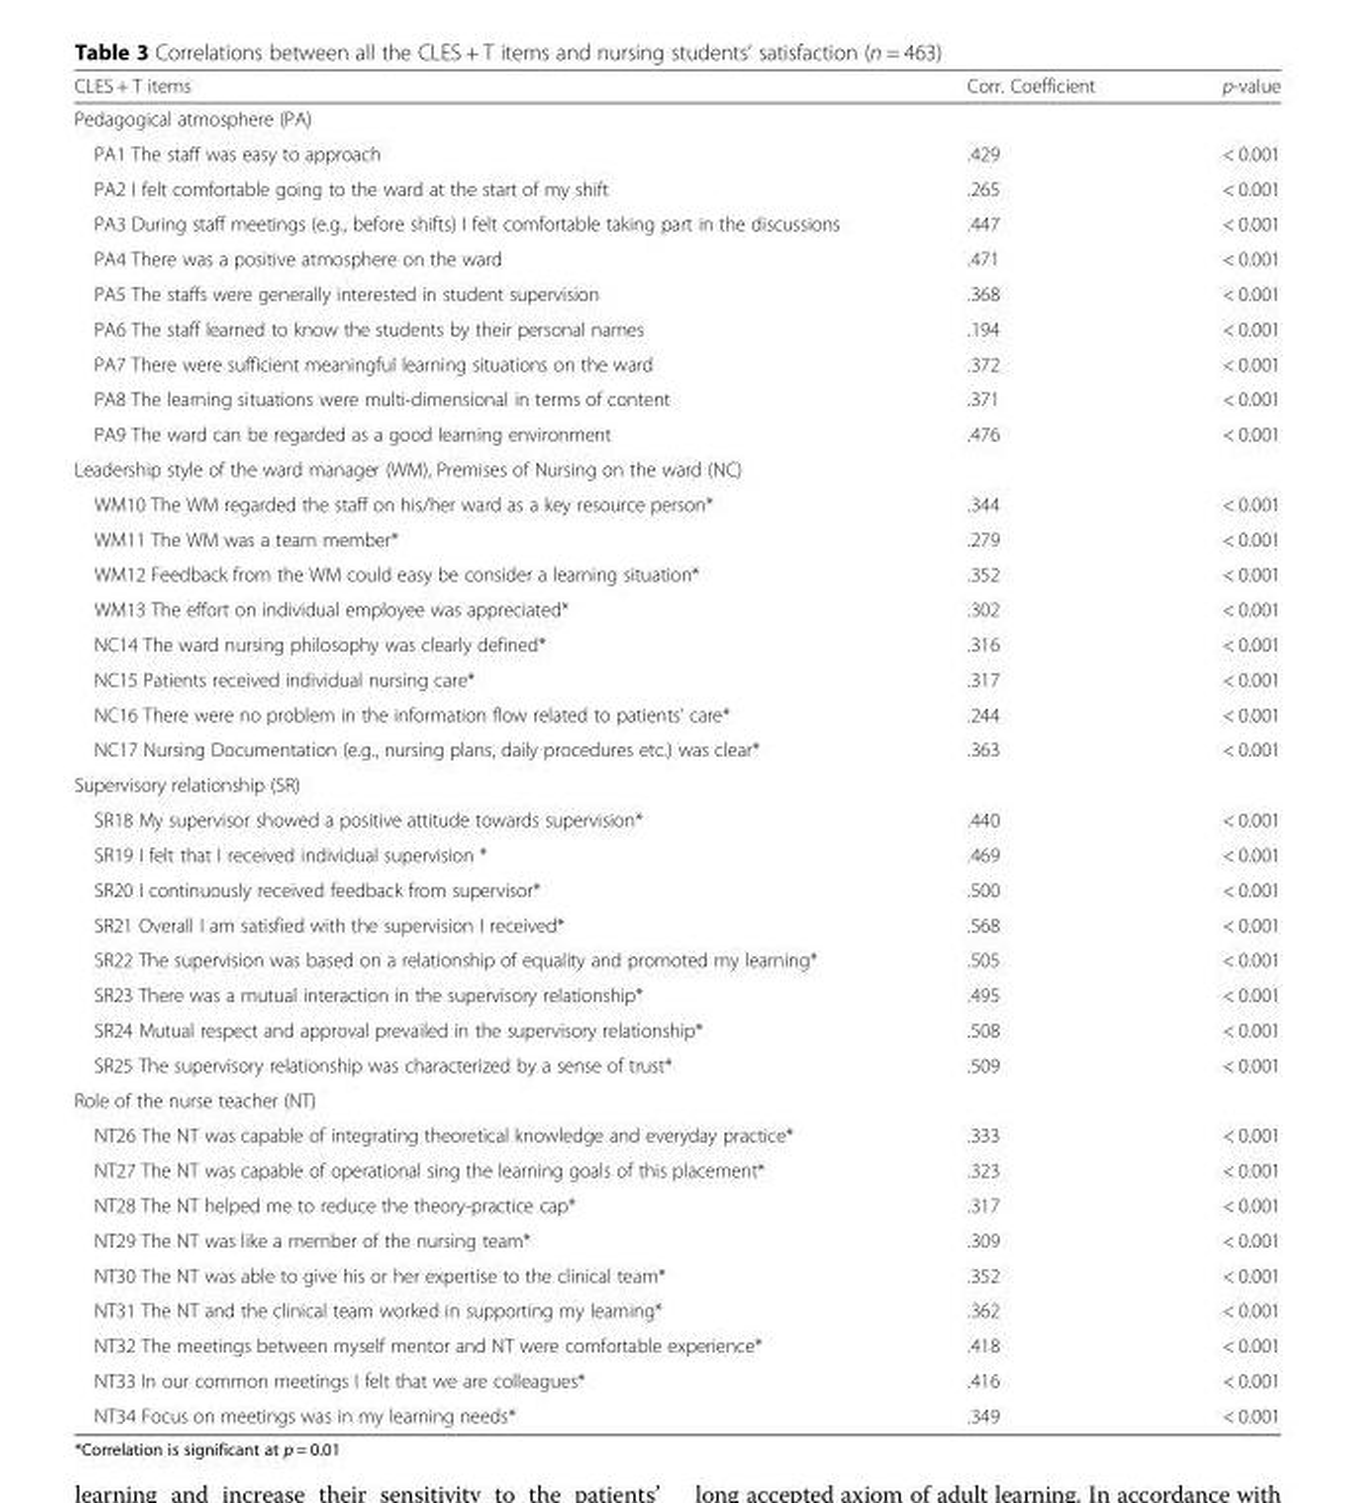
<table><thead><tr><td>CLES + T items</td><td>Corr. Coefficient</td><td>p-value</td></tr></thead><tbody><tr><td colspan="3">Pedagogical atmosphere (PA)</td></tr><tr><td>PA1 The staff was easy to approach</td><td>.429</td><td>&lt; 0.001</td></tr><tr><td>PA2 I felt comfortable going to the ward at the start of my shift</td><td>.265</td><td>&lt; 0.001</td></tr><tr><td>PA3 During staff meetings (e.g., before shifts) I felt comfortable taking part in the discussions</td><td>.447</td><td>&lt; 0.001</td></tr><tr><td>PA4 There was a positive atmosphere on the ward</td><td>.471</td><td>&lt; 0.001</td></tr><tr><td>PA5 The staffs were generally interested in student supervision</td><td>.368</td><td>&lt; 0.001</td></tr><tr><td>PA6 The staff learned to know the students by their personal names</td><td>.194</td><td>&lt; 0.001</td></tr><tr><td>PA7 There were sufficient meaningful learning situations on the ward</td><td>.372</td><td>&lt; 0.001</td></tr><tr><td>PA8 The learning situations were multi-dimensional in terms of content</td><td>.371</td><td>&lt; 0.001</td></tr><tr><td>PA9 The ward can be regarded as a good learning environment</td><td>.476</td><td>&lt; 0.001</td></tr><tr><td colspan="3">Leadership style of the ward manager (WM), Premises of Nursing on the ward (NC)</td></tr><tr><td>WM10 The WM regarded the staff on his/her ward as a key resource person*</td><td>.344</td><td>&lt; 0.001</td></tr><tr><td>WM11 The WM was a team member*</td><td>.279</td><td>&lt; 0.001</td></tr><tr><td>WM12 Feedback from the WM could easy be consider a learning situation*</td><td>.352</td><td>&lt; 0.001</td></tr><tr><td>WM13 The effort on individual employee was appreciated*</td><td>.302</td><td>&lt; 0.001</td></tr><tr><td>NC14 The ward nursing philosophy was clearly defined*</td><td>.316</td><td>&lt; 0.001</td></tr><tr><td>NC15 Patients received individual nursing care*</td><td>.317</td><td>&lt; 0.001</td></tr><tr><td>NC16 There were no problem in the information flow related to patients’ care*</td><td>.244</td><td>&lt; 0.001</td></tr><tr><td>NC17 Nursing Documentation (e.g., nursing plans, daily procedures etc.) was clear*</td><td>.363</td><td>&lt; 0.001</td></tr><tr><td colspan="3">Supervisory relationship (SR)</td></tr><tr><td>SR18 My supervisor showed a positive attitude towards supervision*</td><td>.440</td><td>&lt; 0.001</td></tr><tr><td>SR19 I felt that I received individual supervision *</td><td>.469</td><td>&lt; 0.001</td></tr><tr><td>SR20 I continuously received feedback from supervisor*</td><td>.500</td><td>&lt; 0.001</td></tr><tr><td>SR21 Overall I am satisfied with the supervision I received*</td><td>.568</td><td>&lt; 0.001</td></tr><tr><td>SR22 The supervision was based on a relationship of equality and promoted my learning*</td><td>.505</td><td>&lt; 0.001</td></tr><tr><td>SR23 There was a mutual interaction in the supervisory relationship*</td><td>.495</td><td>&lt; 0.001</td></tr><tr><td>SR24 Mutual respect and approval prevailed in the supervisory relationship*</td><td>.508</td><td>&lt; 0.001</td></tr><tr><td>SR25 The supervisory relationship was characterized by a sense of trust*</td><td>.509</td><td>&lt; 0.001</td></tr><tr><td colspan="3">Role of the nurse teacher (NT)</td></tr><tr><td>NT26 The NT was capable of integrating theoretical knowledge and everyday practice*</td><td>.333</td><td>&lt; 0.001</td></tr><tr><td>NT27 The NT was capable of operational sing the learning goals of this placement*</td><td>.323</td><td>&lt; 0.001</td></tr><tr><td>NT28 The NT helped me to reduce the theory-practice cap*</td><td>.317</td><td>&lt; 0.001</td></tr><tr><td>NT29 The NT was like a member of the nursing team*</td><td>.309</td><td>&lt; 0.001</td></tr><tr><td>NT30 The NT was able to give his or her expertise to the clinical team*</td><td>.352</td><td>&lt; 0.001</td></tr><tr><td>NT31 The NT and the clinical team worked in supporting my learning*</td><td>.362</td><td>&lt; 0.001</td></tr><tr><td>NT32 The meetings between myself mentor and NT were comfortable experience*</td><td>.418</td><td>&lt; 0.001</td></tr><tr><td>NT33 In our common meetings I felt that we are colleagues*</td><td>.416</td><td>&lt; 0.001</td></tr><tr><td>NT34 Focus on meetings was in my learning needs*</td><td>.349</td><td>&lt; 0.001</td></tr></tbody></table>